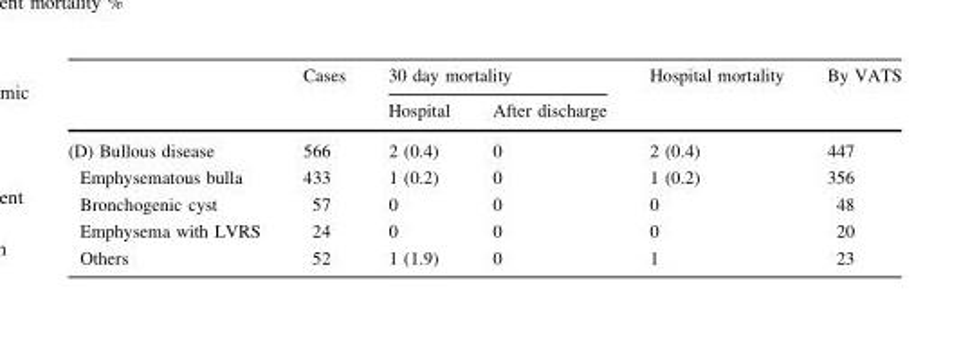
<table><thead><tr><td rowspan="2"></td><td rowspan="2">Cases</td><td colspan="2">30 day mortality</td><td rowspan="2">Hospital mortality</td><td rowspan="2">By VATS</td></tr><tr><td>Hospital</td><td>After discharge</td></tr></thead><tbody><tr><td>(D) Bullous disease</td><td>566</td><td>2 (0.4)</td><td>0</td><td>2 (0.4)</td><td>447</td></tr><tr><td>Emphysematous bulla</td><td>433</td><td>1 (0.2)</td><td>0</td><td>1 (0.2)</td><td>356</td></tr><tr><td>Bronchogenic cyst</td><td>57</td><td>0</td><td>0</td><td>0</td><td>48</td></tr><tr><td>Emphysema with LVRS</td><td>24</td><td>0</td><td>0</td><td>0</td><td>20</td></tr><tr><td>Others</td><td>52</td><td>1 (1.9)</td><td>0</td><td>1</td><td>23</td></tr></tbody></table>